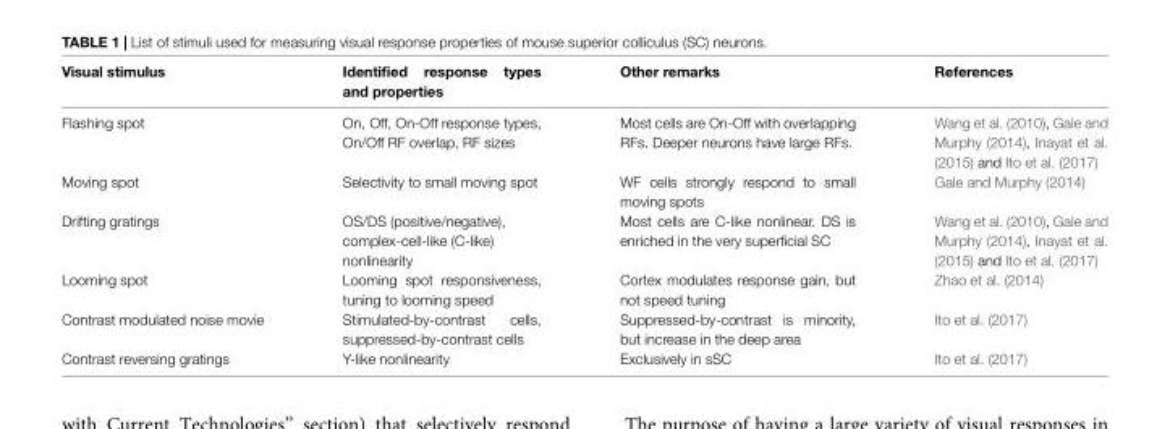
<table><thead><tr><td>Visual stimulus</td><td>Identified response types and properties</td><td>Other remarks</td><td>References</td></tr></thead><tbody><tr><td>Flashing spot</td><td>On, Off, On-Off response types, On/Off RF overlap, RF sizes</td><td>Most cells are On-Off with overlapping RFs. Deeper neurons have large RFs.</td><td>Wang et al. (2010), Gale and Murphy (2014), Inayat et al. (2015) and Ito et al. (2017)</td></tr><tr><td>Moving spot</td><td>Selectivity to small moving spot</td><td>WF cells strongly respond to small moving spots</td><td>Gale and Murphy (2014)</td></tr><tr><td>Drifting gratings</td><td>OS/DS (positive/negative), complex-cell-like (C-like) nonlinearity</td><td>Most cells are C-like nonlinear. DS is enriched in the very superficial SC</td><td>Wang et al. (2010), Gale and Murphy (2014), Inayat et al. (2015) and Ito et al. (2017)</td></tr><tr><td>Looming spot</td><td>Looming spot responsiveness, tuning to looming speed</td><td>Cortex modulates response gain, but not speed tuning</td><td>Zhao et al. (2014)</td></tr><tr><td>Contrast modulated noise movie</td><td>Stimulated-by-contrast cells, suppressed-by-contrast cells</td><td>Suppressed-by-contrast is minority, but increase in the deep area</td><td>Ito et al. (2017)</td></tr><tr><td>Contrast reversing gratings</td><td>Y-like nonlinearity</td><td>Exclusively in sSC</td><td>Ito et al. (2017)</td></tr></tbody></table>